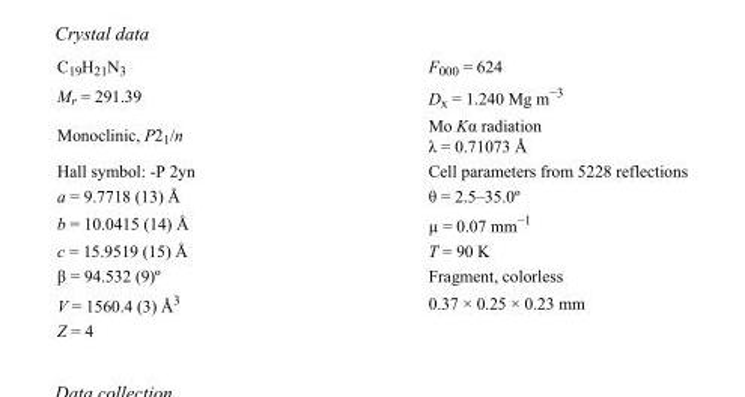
<table><tbody><tr><td>C<sub>19</sub>H<sub>21</sub>N<sub>3</sub></td><td>F<sub>000</sub> = 624</td></tr><tr><td>M<sub>r</sub> = 291.39</td><td>D<sub>x</sub> = 1.240 Mg m<sup>−3</sup></td></tr><tr><td>Monoclinic, P2<sub>1</sub>/n</td><td>Mo Kα radiation λ = 0.71073 Å</td></tr><tr><td>Hall symbol: -P 2yn</td><td>Cell parameters from 5228 reflections</td></tr><tr><td>a = 9.7718 (13) Å</td><td>θ = 2.5–35.0º</td></tr><tr><td>b = 10.0415 (14) Å</td><td>µ = 0.07 mm<sup>−1</sup></td></tr><tr><td>c = 15.9519 (15) Å</td><td>T = 90 K</td></tr><tr><td>β = 94.532 (9)º</td><td>Fragment, colorless</td></tr><tr><td>V = 1560.4 (3) Å<sup>3</sup></td><td>0.37 × 0.25 × 0.23 mm</td></tr><tr><td>Z = 4</td><td></td></tr></tbody></table>